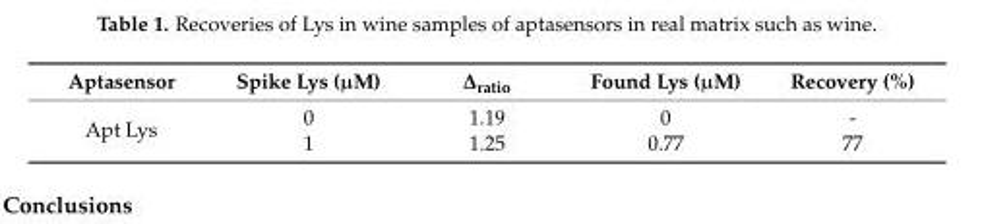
<table><thead><tr><td>Aptasensor</td><td>Spike Lys (µM)</td><td>∆ratio</td><td>Found Lys (µM)</td><td>Recovery (%)</td></tr></thead><tbody><tr><td rowspan="2">Apt Lys</td><td>0</td><td>1.19</td><td>0</td><td>-</td></tr><tr><td>1</td><td>1.25</td><td>0.77</td><td>77</td></tr></tbody></table>